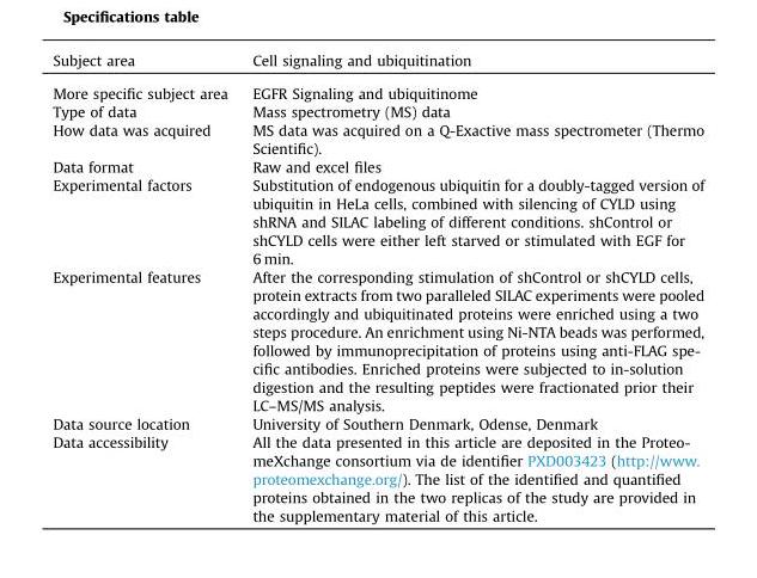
<table><thead><tr><td>Subject area</td><td>Cell signaling and ubiquitination</td></tr></thead><tbody><tr><td>More specific subject area</td><td>EGFR Signaling and ubiquitinome</td></tr><tr><td>Type of data</td><td>Mass spectrometry (MS) data</td></tr><tr><td>How data was acquired</td><td>MS data was acquired on a Q-Exactive mass spectrometer (Thermo Scientific).</td></tr><tr><td>Data format</td><td>Raw and excel files</td></tr><tr><td>Experimental factors</td><td>Substitution of endogenous ubiquitin for a doubly-tagged version of ubiquitin in HeLa cells, combined with silencing of CYLD using shRNA and SILAC labeling of different conditions. shControl or shCYLD cells were either left starved or stimulated with EGF for 6 min.</td></tr><tr><td>Experimental features</td><td>After the corresponding stimulation of shControl or shCYLD cells, protein extracts from two paralleled SILAC experiments were pooled accordingly and ubiquitinated proteins were enriched using a two steps procedure. An enrichment using Ni-NTA beads was performed, followed by immunoprecipitation of proteins using anti-FLAG spe- cific antibodies. Enriched proteins were subjected to in-solution digestion and the resulting peptides were fractionated prior their LC–MS/MS analysis.</td></tr><tr><td>Data source location</td><td>University of Southern Denmark, Odense, Denmark</td></tr><tr><td>Data accessibility</td><td>All the data presented in this article are deposited in the Proteo- meXchange consortium via de identifier PXD003423 (http://www. proteomexchange.org/). The list of the identified and quantified proteins obtained in the two replicas of the study are provided in the supplementary material of this article.</td></tr></tbody></table>